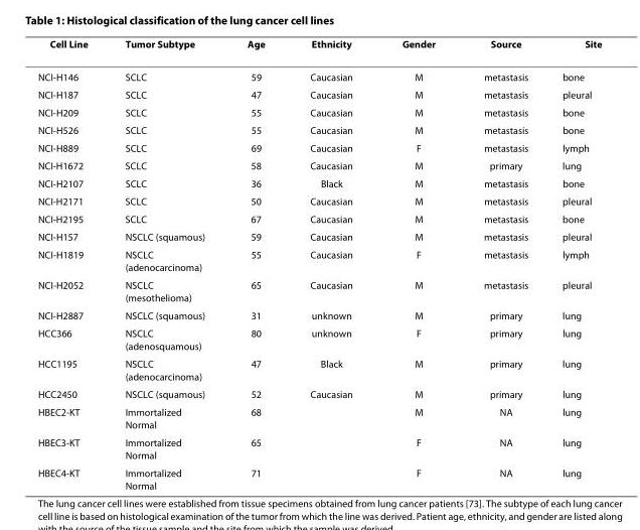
<table><thead><tr><td>Cell Line</td><td>Tumor Subtype</td><td>Age</td><td>Ethnicity</td><td>Gender</td><td>Source</td><td>Site</td></tr></thead><tbody><tr><td>NCI-H146</td><td>SCLC</td><td>59</td><td>Caucasian</td><td>M</td><td>metastasis</td><td>bone</td></tr><tr><td>NCI-H187</td><td>SCLC</td><td>47</td><td>Caucasian</td><td>M</td><td>metastasis</td><td>pleural</td></tr><tr><td>NCI-H209</td><td>SCLC</td><td>55</td><td>Caucasian</td><td>M</td><td>metastasis</td><td>bone</td></tr><tr><td>NCI-H526</td><td>SCLC</td><td>55</td><td>Caucasian</td><td>M</td><td>metastasis</td><td>bone</td></tr><tr><td>NCI-H889</td><td>SCLC</td><td>69</td><td>Caucasian</td><td>F</td><td>metastasis</td><td>lymph</td></tr><tr><td>NCI-H1672</td><td>SCLC</td><td>58</td><td>Caucasian</td><td>M</td><td>primary</td><td>lung</td></tr><tr><td>NCI-H2107</td><td>SCLC</td><td>36</td><td>Black</td><td>M</td><td>metastasis</td><td>bone</td></tr><tr><td>NCI-H2171</td><td>SCLC</td><td>50</td><td>Caucasian</td><td>M</td><td>metastasis</td><td>pleural</td></tr><tr><td>NCI-H2195</td><td>SCLC</td><td>67</td><td>Caucasian</td><td>M</td><td>metastasis</td><td>bone</td></tr><tr><td>NCI-H157</td><td>NSCLC (squamous)</td><td>59</td><td>Caucasian</td><td>M</td><td>metastasis</td><td>pleural</td></tr><tr><td>NCI-H1819</td><td>NSCLC (adenocarcinoma)</td><td>55</td><td>Caucasian</td><td>F</td><td>metastasis</td><td>lymph</td></tr><tr><td>NCI-H2052</td><td>NSCLC (mesothelioma)</td><td>65</td><td>Caucasian</td><td>M</td><td>metastasis</td><td>pleural</td></tr><tr><td>NCI-H2887</td><td>NSCLC (squamous)</td><td>31</td><td>unknown</td><td>M</td><td>primary</td><td>lung</td></tr><tr><td>HCC366</td><td>NSCLC (adenosquamous)</td><td>80</td><td>unknown</td><td>F</td><td>primary</td><td>lung</td></tr><tr><td>HCC1195</td><td>NSCLC (adenocarcinoma)</td><td>47</td><td>Black</td><td>M</td><td>primary</td><td>lung</td></tr><tr><td>HCC2450</td><td>NSCLC (squamous)</td><td>52</td><td>Caucasian</td><td>M</td><td>primary</td><td>lung</td></tr><tr><td>HBEC2-KT</td><td>Immortalized Normal</td><td>68</td><td></td><td>M</td><td>NA</td><td>lung</td></tr><tr><td>HBEC3-KT</td><td>Immortalized Normal</td><td>65</td><td></td><td>F</td><td>NA</td><td>lung</td></tr><tr><td>HBEC4-KT</td><td>Immortalized Normal</td><td>71</td><td></td><td>F</td><td>NA</td><td>lung</td></tr></tbody></table>